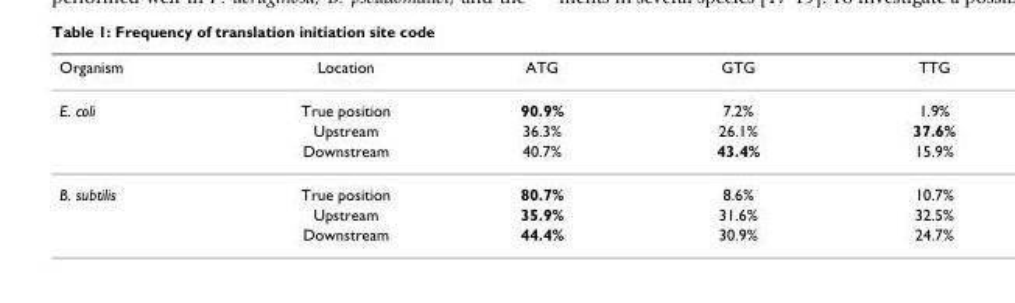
<table><thead><tr><td>Organism</td><td>Location</td><td>ATG</td><td>GTG</td><td>TTG</td></tr></thead><tbody><tr><td rowspan="3">E. coli</td><td>True position</td><td>90.9%</td><td>7.2%</td><td>1.9%</td></tr><tr><td>Upstream</td><td>36.3%</td><td>26.1%</td><td>37.6%</td></tr><tr><td>Downstream</td><td>40.7%</td><td>43.4%</td><td>15.9%</td></tr><tr><td rowspan="3">B. subtilis</td><td>True position</td><td>80.7%</td><td>8.6%</td><td>10.7%</td></tr><tr><td>Upstream</td><td>35.9%</td><td>31.6%</td><td>32.5%</td></tr><tr><td>Downstream</td><td>44.4%</td><td>30.9%</td><td>24.7%</td></tr></tbody></table>